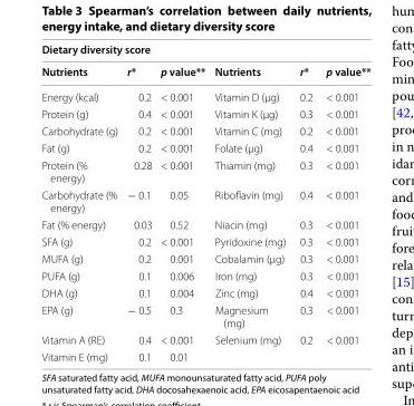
<table><thead><tr><td colspan="6">Dietary diversity score</td></tr><tr><td>Nutrients</td><td>r*</td><td>p value**</td><td>Nutrients</td><td>r*</td><td>p value**</td></tr></thead><tbody><tr><td>Energy (kcal)</td><td>0.2</td><td>&lt; 0.001</td><td>Vitamin D (µg)</td><td>0.2</td><td>&lt; 0.001</td></tr><tr><td>Protein (g)</td><td>0.4</td><td>&lt; 0.001</td><td>Vitamin K (µg)</td><td>0.3</td><td>&lt; 0.001</td></tr><tr><td>Carbohydrate (g)</td><td>0.2</td><td>&lt; 0.001</td><td>Vitamin C (mg)</td><td>0.2</td><td>&lt; 0.001</td></tr><tr><td>Fat (g)</td><td>0.2</td><td>&lt; 0.001</td><td>Folate (µg)</td><td>0.4</td><td>&lt; 0.001</td></tr><tr><td>Protein (% energy)</td><td>0.28</td><td>&lt; 0.001</td><td>Thiamin (mg)</td><td>0.3</td><td>&lt; 0.001</td></tr><tr><td>Carbohydrate (% energy)</td><td>− 0.1</td><td>0.05</td><td>Riboflavin (mg)</td><td>0.4</td><td>&lt; 0.001</td></tr><tr><td>Fat (% energy)</td><td>0.03</td><td>0.52</td><td>Niacin (mg)</td><td>0.3</td><td>&lt; 0.001</td></tr><tr><td>SFA (g)</td><td>0.2</td><td>&lt; 0.001</td><td>Pyridoxine (mg)</td><td>0.3</td><td>&lt; 0.001</td></tr><tr><td>MUFA (g)</td><td>0.2</td><td>0.001</td><td>Cobalamin (µg)</td><td>0.3</td><td>&lt; 0.001</td></tr><tr><td>PUFA (g)</td><td>0.1</td><td>0.006</td><td>Iron (mg)</td><td>0.3</td><td>&lt; 0.001</td></tr><tr><td>DHA (g)</td><td>0.1</td><td>0.004</td><td>Zinc (mg)</td><td>0.4</td><td>&lt; 0.001</td></tr><tr><td>EPA (g)</td><td>− 0.5</td><td>0.3</td><td>Magnesium (mg)</td><td>0.3</td><td>&lt; 0.001</td></tr><tr><td>Vitamin A (RE)</td><td>0.4</td><td>&lt; 0.001</td><td>Selenium (mg)</td><td>0.2</td><td>&lt; 0.001</td></tr><tr><td>Vitamin E (mg)</td><td>0.1</td><td>0.01</td><td></td><td></td><td></td></tr></tbody></table>